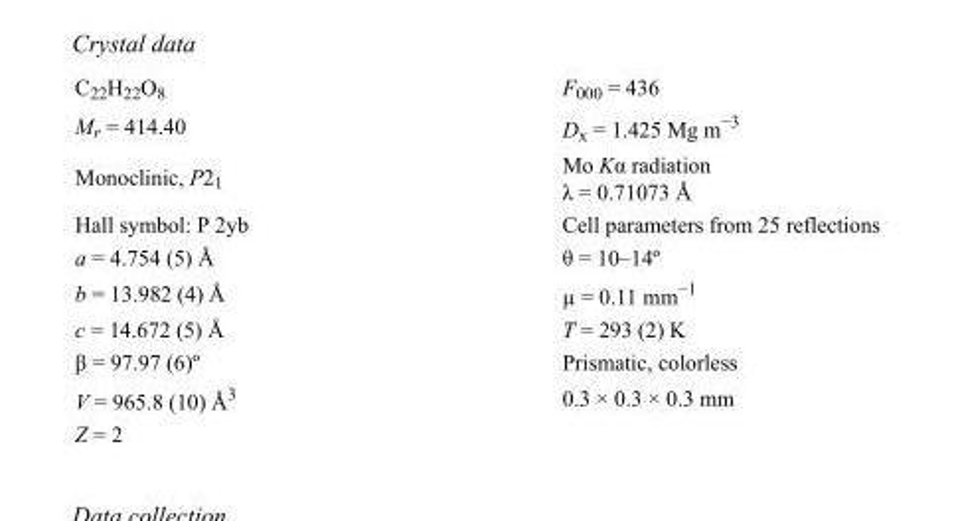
<table><tbody><tr><td>C<sub>22</sub>H<sub>22</sub>O<sub>8</sub></td><td>F<sub>000</sub> = 436</td></tr><tr><td>M<sub>r</sub> = 414.40</td><td>D<sub>x</sub> = 1.425 Mg m<sup>−3</sup></td></tr><tr><td>Monoclinic, P2<sub>1</sub></td><td>Mo Kα radiation λ = 0.71073 Å</td></tr><tr><td>Hall symbol: P 2yb</td><td>Cell parameters from 25 reflections</td></tr><tr><td>a = 4.754 (5) Å</td><td>θ = 10–14º</td></tr><tr><td>b = 13.982 (4) Å</td><td>µ = 0.11 mm<sup>−1</sup></td></tr><tr><td>c = 14.672 (5) Å</td><td>T = 293 (2) K</td></tr><tr><td>β = 97.97 (6)º</td><td>Prismatic, colorless</td></tr><tr><td>V = 965.8 (10) Å<sup>3</sup></td><td>0.3 × 0.3 × 0.3 mm</td></tr><tr><td>Z = 2</td><td></td></tr></tbody></table>